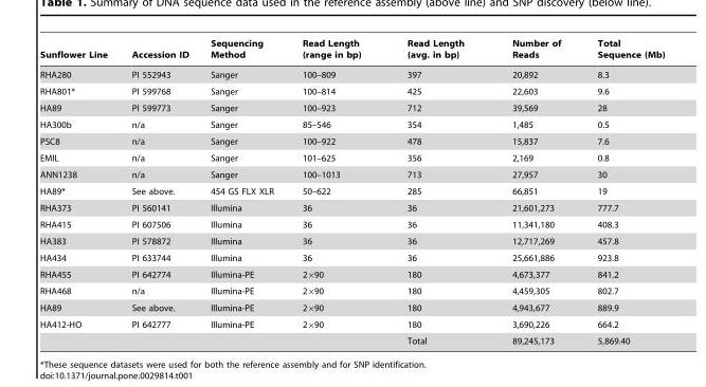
<table><thead><tr><td>Sunflower Line</td><td>Accession ID</td><td>Sequencing Method</td><td>Read Length (range in bp)</td><td>Read Length (avg. in bp)</td><td>Number of Reads</td><td>Total Sequence (Mb)</td></tr></thead><tbody><tr><td>RHA280</td><td>PI 552943</td><td>Sanger</td><td>100–809</td><td>397</td><td>20,892</td><td>8.3</td></tr><tr><td>RHA801*</td><td>PI 599768</td><td>Sanger</td><td>100–814</td><td>425</td><td>22,603</td><td>9.6</td></tr><tr><td>HA89</td><td>PI 599773</td><td>Sanger</td><td>100–923</td><td>712</td><td>39,569</td><td>28</td></tr><tr><td>HA300b</td><td>n/a</td><td>Sanger</td><td>85–546</td><td>354</td><td>1,485</td><td>0.5</td></tr><tr><td>PSC8</td><td>n/a</td><td>Sanger</td><td>100–922</td><td>478</td><td>15,837</td><td>7.6</td></tr><tr><td>EMIL</td><td>n/a</td><td>Sanger</td><td>101–625</td><td>356</td><td>2,169</td><td>0.8</td></tr><tr><td>ANN1238</td><td>n/a</td><td>Sanger</td><td>100–1013</td><td>713</td><td>27,957</td><td>30</td></tr><tr><td>HA89*</td><td>See above.</td><td>454 GS FLX XLR</td><td>50–622</td><td>285</td><td>66,851</td><td>19</td></tr><tr><td>RHA373</td><td>PI 560141</td><td>Illumina</td><td>36</td><td>36</td><td>21,601,273</td><td>777.7</td></tr><tr><td>RHA415</td><td>PI 607506</td><td>Illumina</td><td>36</td><td>36</td><td>11,341,180</td><td>408.3</td></tr><tr><td>HA383</td><td>PI 578872</td><td>Illumina</td><td>36</td><td>36</td><td>12,717,269</td><td>457.8</td></tr><tr><td>HA434</td><td>PI 633744</td><td>Illumina</td><td>36</td><td>36</td><td>25,661,886</td><td>923.8</td></tr><tr><td>RHA455</td><td>PI 642774</td><td>Illumina-PE</td><td>2×90</td><td>180</td><td>4,673,377</td><td>841.2</td></tr><tr><td>RHA468</td><td>n/a</td><td>Illumina-PE</td><td>2×90</td><td>180</td><td>4,459,305</td><td>802.7</td></tr><tr><td>HA89</td><td>See above.</td><td>Illumina-PE</td><td>2×90</td><td>180</td><td>4,943,677</td><td>889.9</td></tr><tr><td rowspan="2">HA412-HO</td><td>PI 642777</td><td>Illumina-PE</td><td>2×90</td><td>180</td><td>3,690,226</td><td>664.2</td></tr><tr><td></td><td></td><td></td><td>Total</td><td>89,245,173</td><td>5,869.40</td></tr></tbody></table>